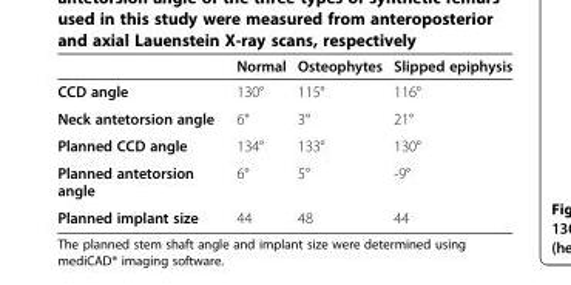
<table><thead><tr><td></td><td>Normal</td><td>Osteophytes</td><td>Slipped epiphysis</td></tr></thead><tbody><tr><td>CCD angle</td><td>130°</td><td>115°</td><td>116°</td></tr><tr><td>Neck antetorsion angle</td><td>6°</td><td>3°</td><td>21°</td></tr><tr><td>Planned CCD angle</td><td>134°</td><td>133°</td><td>130°</td></tr><tr><td>Planned antetorsion angle</td><td>6°</td><td>5°</td><td>-9°</td></tr><tr><td>Planned implant size</td><td>44</td><td>48</td><td>44</td></tr></tbody></table>